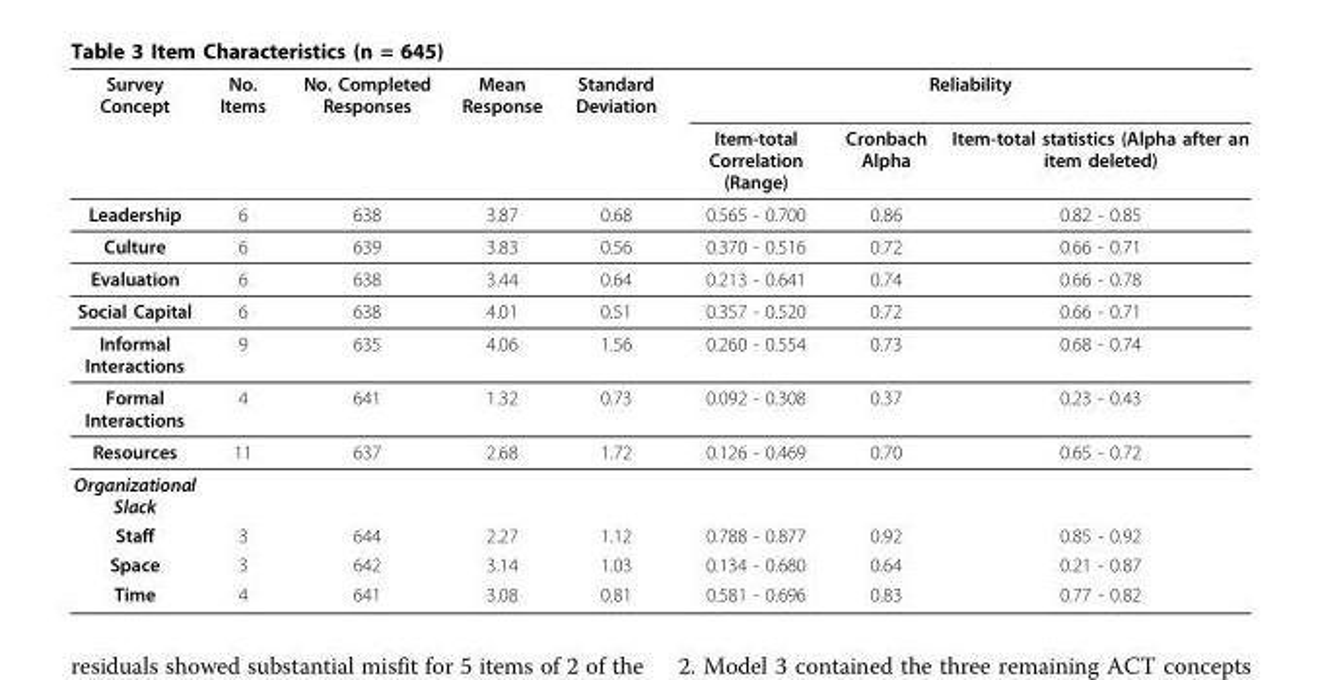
<table><thead><tr><td rowspan="2">Survey Concept</td><td rowspan="2">No. Items</td><td rowspan="2">No. Completed Responses</td><td rowspan="2">Mean Response</td><td rowspan="2">Standard Deviation</td><td colspan="3">Reliability</td></tr><tr><td>Item-total Correlation (Range)</td><td>Cronbach Alpha</td><td>Item-total statistics (Alpha after an item deleted)</td></tr></thead><tbody><tr><td>Leadership</td><td>6</td><td>638</td><td>3.87</td><td>0.68</td><td>0.565 - 0.700</td><td>0.86</td><td>0.82 - 0.85</td></tr><tr><td>Culture</td><td>6</td><td>639</td><td>3.83</td><td>0.56</td><td>0.370 - 0.516</td><td>0.72</td><td>0.66 - 0.71</td></tr><tr><td>Evaluation</td><td>6</td><td>638</td><td>3.44</td><td>0.64</td><td>0.213 - 0.641</td><td>0.74</td><td>0.66 - 0.78</td></tr><tr><td>Social Capital</td><td>6</td><td>638</td><td>4.01</td><td>0.51</td><td>0.357 - 0.520</td><td>0.72</td><td>0.66 - 0.71</td></tr><tr><td>Informal Interactions</td><td>9</td><td>635</td><td>4.06</td><td>1.56</td><td>0.260 - 0.554</td><td>0.73</td><td>0.68 - 0.74</td></tr><tr><td>Formal Interactions</td><td>4</td><td>641</td><td>1.32</td><td>0.73</td><td>0.092 - 0.308</td><td>0.37</td><td>0.23 - 0.43</td></tr><tr><td>Resources</td><td>11</td><td>637</td><td>2.68</td><td>1.72</td><td>0.126 - 0.469</td><td>0.70</td><td>0.65 - 0.72</td></tr><tr><td colspan="8">Organizational Slack</td></tr><tr><td>Staff</td><td>3</td><td>644</td><td>2.27</td><td>1.12</td><td>0.788 - 0.877</td><td>0.92</td><td>0.85 - 0.92</td></tr><tr><td>Space</td><td>3</td><td>642</td><td>3.14</td><td>1.03</td><td>0.134 - 0.680</td><td>0.64</td><td>0.21 - 0.87</td></tr><tr><td>Time</td><td>4</td><td>641</td><td>3.08</td><td>0.81</td><td>0.581 - 0.696</td><td>0.83</td><td>0.77 - 0.82</td></tr></tbody></table>